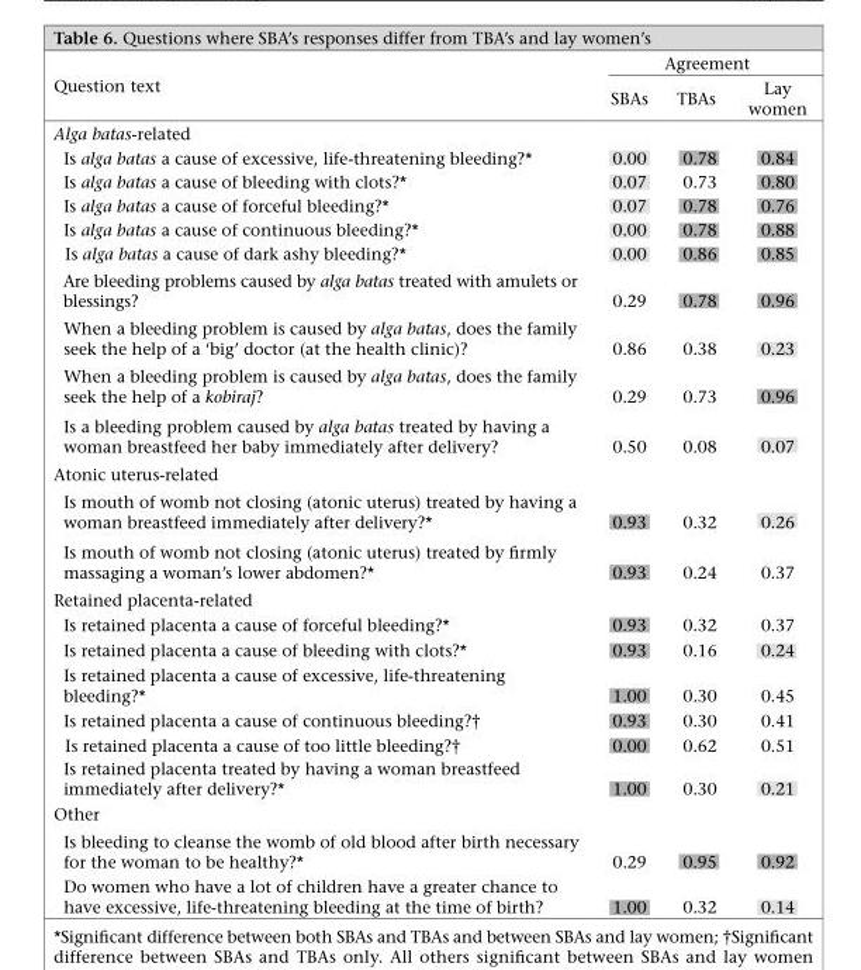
<table><thead><tr><td rowspan="2">Question text</td><td colspan="3">Agreement</td></tr><tr><td>SBAs</td><td>TBAs</td><td>Lay women</td></tr></thead><tbody><tr><td colspan="4">Alga batas-related</td></tr><tr><td>Is alga batas a cause of excessive, life-threatening bleeding?*</td><td>0.00</td><td>0.78</td><td>0.84</td></tr><tr><td>Is alga batas a cause of bleeding with clots?*</td><td>0.07</td><td>0.73</td><td>0.80</td></tr><tr><td>Is alga batas a cause of forceful bleeding?*</td><td>0.07</td><td>0.78</td><td>0.76</td></tr><tr><td>Is alga batas a cause of continuous bleeding?*</td><td>0.00</td><td>0.78</td><td>0.88</td></tr><tr><td>Is alga batas a cause of dark ashy bleeding?*</td><td>0.00</td><td>0.86</td><td>0.85</td></tr><tr><td>Are bleeding problems caused by alga batas treated with amulets or blessings?</td><td>0.29</td><td>0.78</td><td>0.96</td></tr><tr><td>When a bleeding problem is caused by alga batas, does the family seek the help of a ‘big’ doctor (at the health clinic)?</td><td>0.86</td><td>0.38</td><td>0.23</td></tr><tr><td>When a bleeding problem is caused by alga batas, does the family seek the help of a kobiraj?</td><td>0.29</td><td>0.73</td><td>0.96</td></tr><tr><td>Is a bleeding problem caused by alga batas treated by having a woman breastfeed her baby immediately after delivery?</td><td>0.50</td><td>0.08</td><td>0.07</td></tr><tr><td colspan="4">Atonic uterus-related</td></tr><tr><td>Is mouth of womb not closing (atonic uterus) treated by having a woman breastfeed immediately after delivery?*</td><td>0.93</td><td>0.32</td><td>0.26</td></tr><tr><td>Is mouth of womb not closing (atonic uterus) treated by firmly massaging a woman’s lower abdomen?*</td><td>0.93</td><td>0.24</td><td>0.37</td></tr><tr><td colspan="4">Retained placenta-related</td></tr><tr><td>Is retained placenta a cause of forceful bleeding?*</td><td>0.93</td><td>0.32</td><td>0.37</td></tr><tr><td>Is retained placenta a cause of bleeding with clots?*</td><td>0.93</td><td>0.16</td><td>0.24</td></tr><tr><td>Is retained placenta a cause of excessive, life-threatening bleeding?*</td><td>1.00</td><td>0.30</td><td>0.45</td></tr><tr><td>Is retained placenta a cause of continuous bleeding?†</td><td>0.93</td><td>0.30</td><td>0.41</td></tr><tr><td>Is retained placenta a cause of too little bleeding?†</td><td>0.00</td><td>0.62</td><td>0.51</td></tr><tr><td>Is retained placenta treated by having a woman breastfeed immediately after delivery?*</td><td>1.00</td><td>0.30</td><td>0.21</td></tr><tr><td colspan="4">Other</td></tr><tr><td>Is bleeding to cleanse the womb of old blood after birth necessary for the woman to be healthy?*</td><td>0.29</td><td>0.95</td><td>0.92</td></tr><tr><td>Do women who have a lot of children have a greater chance to have excessive, life-threatening bleeding at the time of birth?</td><td>1.00</td><td>0.32</td><td>0.14</td></tr></tbody></table>